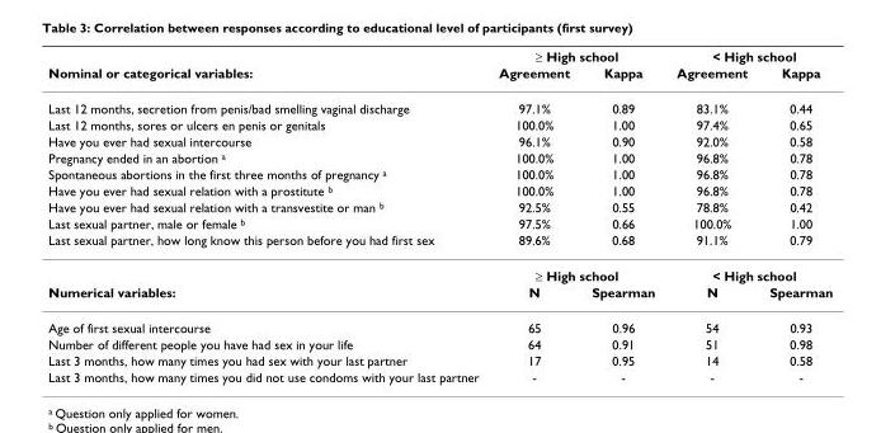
<table><thead><tr><td rowspan="2">Nominal or categorical variables:</td><td colspan="2">≥ High school</td><td colspan="2">&lt; High school</td></tr><tr><td>Agreement</td><td>Kappa</td><td>Agreement</td><td>Kappa</td></tr></thead><tbody><tr><td>Last 12 months, secretion from penis/bad smelling vaginal discharge</td><td>97.1%</td><td>0.89</td><td>83.1%</td><td>0.44</td></tr><tr><td>Last 12 months, sores or ulcers en penis or genitals</td><td>100.0%</td><td>1.00</td><td>97.4%</td><td>0.65</td></tr><tr><td>Have you ever had sexual intercourse</td><td>96.1%</td><td>0.90</td><td>92.0%</td><td>0.58</td></tr><tr><td>Pregnancy ended in an abortion <sup>a</sup></td><td>100.0%</td><td>1.00</td><td>96.8%</td><td>0.78</td></tr><tr><td>Spontaneous abortions in the first three months of pregnancy <sup>a</sup></td><td>100.0%</td><td>1.00</td><td>96.8%</td><td>0.78</td></tr><tr><td>Have you ever had sexual relation with a prostitute <sup>b</sup></td><td>100.0%</td><td>1.00</td><td>96.8%</td><td>0.78</td></tr><tr><td>Have you ever had sexual relation with a transvestite or man <sup>b</sup></td><td>92.5%</td><td>0.55</td><td>78.8%</td><td>0.42</td></tr><tr><td>Last sexual partner, male or female <sup>b</sup></td><td>97.5%</td><td>0.66</td><td>100.0%</td><td>1.00</td></tr><tr><td rowspan="2">Last sexual partner, how long know this person before you had first sex</td><td>89.6%</td><td>0.68</td><td>91.1%</td><td>0.79</td></tr><tr><td colspan="2">≥ High school</td><td colspan="2">&lt; High school</td></tr><tr><td>Numerical variables:</td><td>N</td><td>Spearman</td><td>N</td><td>Spearman</td></tr><tr><td>Age of first sexual intercourse</td><td>65</td><td>0.96</td><td>54</td><td>0.93</td></tr><tr><td>Number of different people you have had sex in your life</td><td>64</td><td>0.91</td><td>51</td><td>0.98</td></tr><tr><td>Last 3 months, how many times you had sex with your last partner</td><td>17</td><td>0.95</td><td>14</td><td>0.58</td></tr><tr><td>Last 3 months, how many times you did not use condoms with your last partner</td><td>-</td><td>-</td><td>-</td><td>-</td></tr></tbody></table>